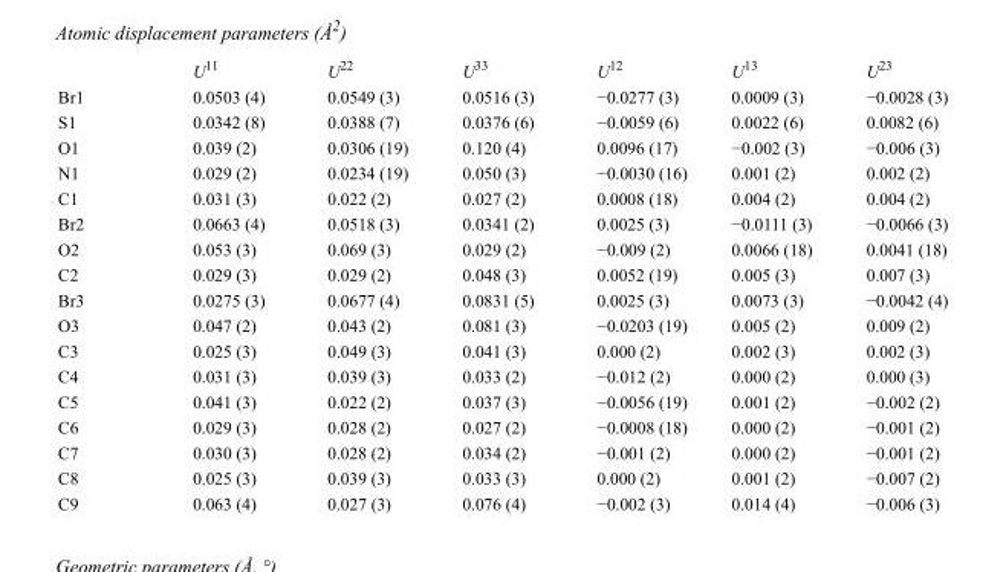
<table><thead><tr><td></td><td>U<sup>11</sup></td><td>U<sup>22</sup></td><td>U<sup>33</sup></td><td>U<sup>12</sup></td><td>U<sup>13</sup></td><td>U<sup>23</sup></td></tr></thead><tbody><tr><td>Br1</td><td>0.0503 (4)</td><td>0.0549 (3)</td><td>0.0516 (3)</td><td>−0.0277 (3)</td><td>0.0009 (3)</td><td>−0.0028 (3)</td></tr><tr><td>S1</td><td>0.0342 (8)</td><td>0.0388 (7)</td><td>0.0376 (6)</td><td>−0.0059 (6)</td><td>0.0022 (6)</td><td>0.0082 (6)</td></tr><tr><td>O1</td><td>0.039 (2)</td><td>0.0306 (19)</td><td>0.120 (4)</td><td>0.0096 (17)</td><td>−0.002 (3)</td><td>−0.006 (3)</td></tr><tr><td>N1</td><td>0.029 (2)</td><td>0.0234 (19)</td><td>0.050 (3)</td><td>−0.0030 (16)</td><td>0.001 (2)</td><td>0.002 (2)</td></tr><tr><td>C1</td><td>0.031 (3)</td><td>0.022 (2)</td><td>0.027 (2)</td><td>0.0008 (18)</td><td>0.004 (2)</td><td>0.004 (2)</td></tr><tr><td>Br2</td><td>0.0663 (4)</td><td>0.0518 (3)</td><td>0.0341 (2)</td><td>0.0025 (3)</td><td>−0.0111 (3)</td><td>−0.0066 (3)</td></tr><tr><td>O2</td><td>0.053 (3)</td><td>0.069 (3)</td><td>0.029 (2)</td><td>−0.009 (2)</td><td>0.0066 (18)</td><td>0.0041 (18)</td></tr><tr><td>C2</td><td>0.029 (3)</td><td>0.029 (2)</td><td>0.048 (3)</td><td>0.0052 (19)</td><td>0.005 (3)</td><td>0.007 (3)</td></tr><tr><td>Br3</td><td>0.0275 (3)</td><td>0.0677 (4)</td><td>0.0831 (5)</td><td>0.0025 (3)</td><td>0.0073 (3)</td><td>−0.0042 (4)</td></tr><tr><td>O3</td><td>0.047 (2)</td><td>0.043 (2)</td><td>0.081 (3)</td><td>−0.0203 (19)</td><td>0.005 (2)</td><td>0.009 (2)</td></tr><tr><td>C3</td><td>0.025 (3)</td><td>0.049 (3)</td><td>0.041 (3)</td><td>0.000 (2)</td><td>0.002 (3)</td><td>0.002 (3)</td></tr><tr><td>C4</td><td>0.031 (3)</td><td>0.039 (3)</td><td>0.033 (2)</td><td>−0.012 (2)</td><td>0.000 (2)</td><td>0.000 (3)</td></tr><tr><td>C5</td><td>0.041 (3)</td><td>0.022 (2)</td><td>0.037 (3)</td><td>−0.0056 (19)</td><td>0.001 (2)</td><td>−0.002 (2)</td></tr><tr><td>C6</td><td>0.029 (3)</td><td>0.028 (2)</td><td>0.027 (2)</td><td>−0.0008 (18)</td><td>0.000 (2)</td><td>−0.001 (2)</td></tr><tr><td>C7</td><td>0.030 (3)</td><td>0.028 (2)</td><td>0.034 (2)</td><td>−0.001 (2)</td><td>0.000 (2)</td><td>−0.001 (2)</td></tr><tr><td>C8</td><td>0.025 (3)</td><td>0.039 (3)</td><td>0.033 (3)</td><td>0.000 (2)</td><td>0.001 (2)</td><td>−0.007 (2)</td></tr><tr><td>C9</td><td>0.063 (4)</td><td>0.027 (3)</td><td>0.076 (4)</td><td>−0.002 (3)</td><td>0.014 (4)</td><td>−0.006 (3)</td></tr></tbody></table>